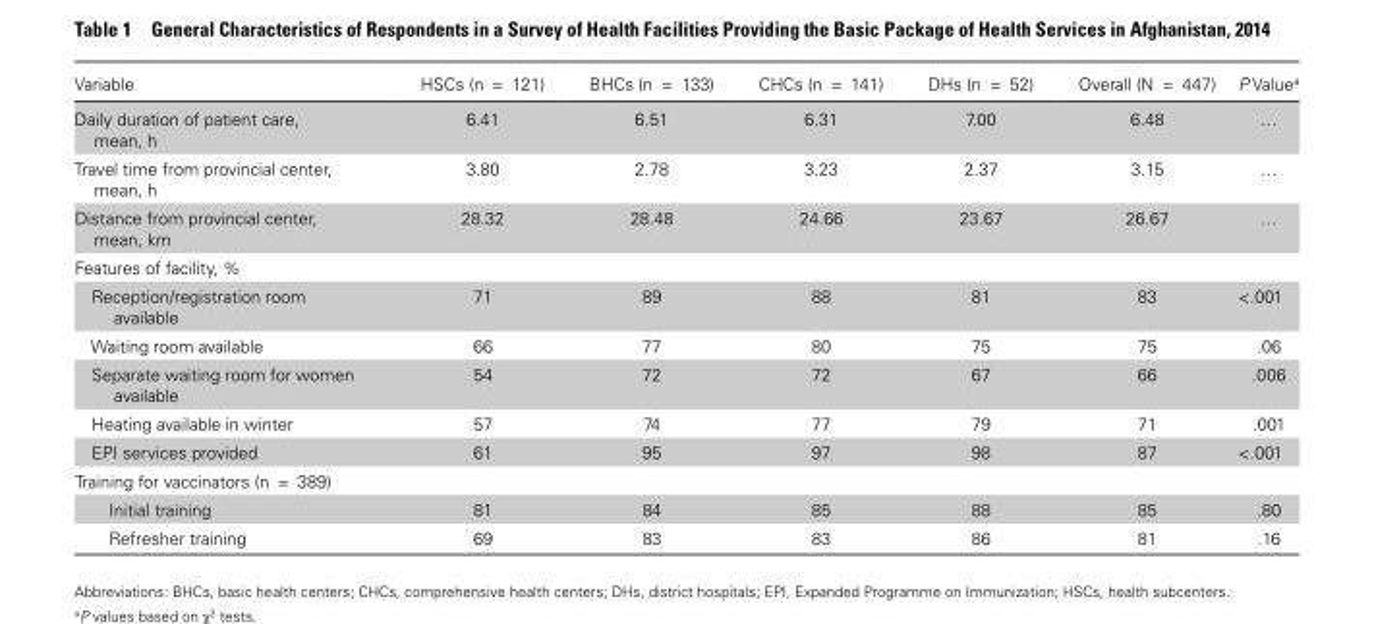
<table><thead><tr><td>Variable</td><td>HSCs (n = 121)</td><td>BHCs (n = 133)</td><td>CHCs (n = 141)</td><td>DHs (n = 52)</td><td>Overall (N = 447)</td><td>P Value<sup>a</sup></td></tr></thead><tbody><tr><td>Daily duration of patient care, mean, h</td><td>6.41</td><td>6.51</td><td>6.31</td><td>7.00</td><td>6.48</td><td>…</td></tr><tr><td>Travel time from provincial center, mean, h</td><td>3.80</td><td>2.78</td><td>3.23</td><td>2.37</td><td>3.15</td><td>…</td></tr><tr><td>Distance from provincial center, mean, km</td><td>28.32</td><td>28.48</td><td>24.66</td><td>23.67</td><td>26.67</td><td>…</td></tr><tr><td colspan="7">Features of facility, %</td></tr><tr><td>Reception/registration room available</td><td>71</td><td>89</td><td>88</td><td>81</td><td>83</td><td>&lt;.001</td></tr><tr><td>Waiting room available</td><td>66</td><td>77</td><td>80</td><td>75</td><td>75</td><td>.06</td></tr><tr><td>Separate waiting room for women available</td><td>54</td><td>72</td><td>72</td><td>67</td><td>66</td><td>.006</td></tr><tr><td>Heating available in winter</td><td>57</td><td>74</td><td>77</td><td>79</td><td>71</td><td>.001</td></tr><tr><td>EPI services provided</td><td>61</td><td>95</td><td>97</td><td>98</td><td>87</td><td>&lt;.001</td></tr><tr><td colspan="7">Training for vaccinators (n = 389)</td></tr><tr><td>Initial training</td><td>81</td><td>84</td><td>85</td><td>88</td><td>85</td><td>.80</td></tr><tr><td>Refresher training</td><td>69</td><td>83</td><td>83</td><td>86</td><td>81</td><td>.16</td></tr></tbody></table>